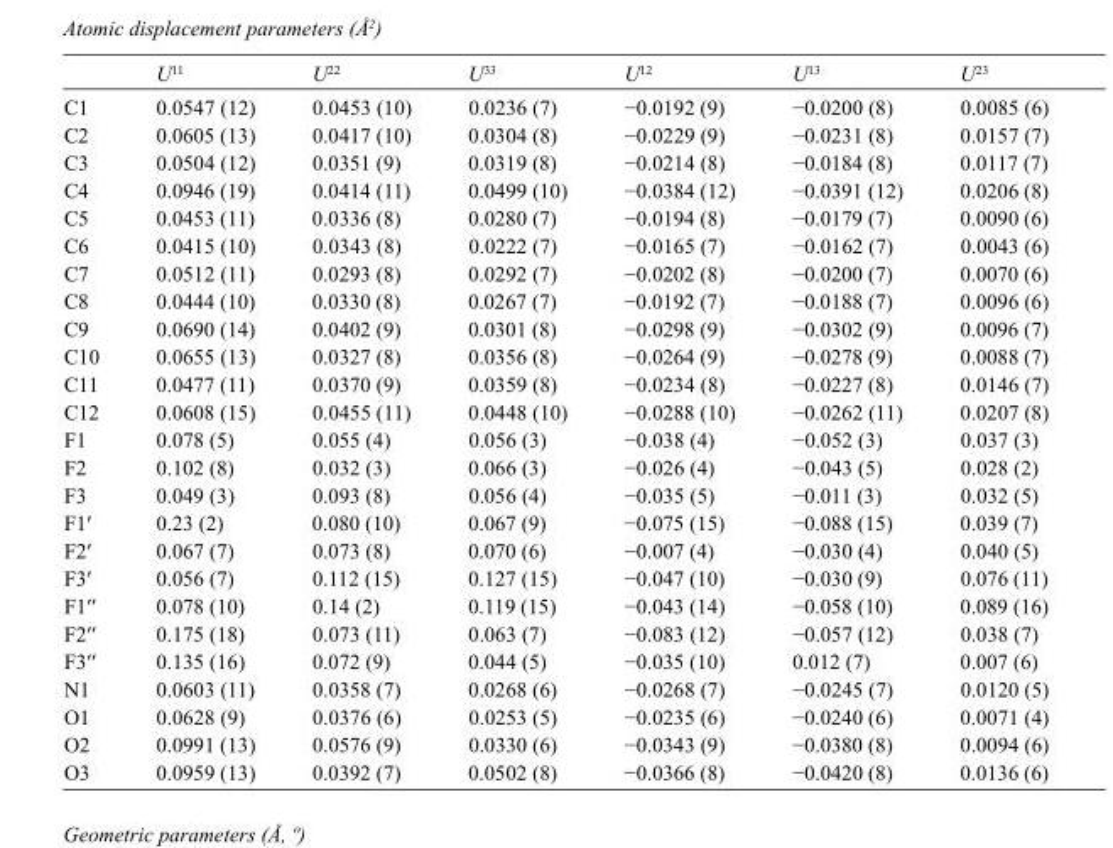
<table><thead><tr><td></td><td>U<sup>11</sup></td><td>U<sup>22</sup></td><td>U<sup>33</sup></td><td>U<sup>12</sup></td><td>U<sup>13</sup></td><td>U<sup>23</sup></td></tr></thead><tbody><tr><td>C1</td><td>0.0547 (12)</td><td>0.0453 (10)</td><td>0.0236 (7)</td><td>−0.0192 (9)</td><td>−0.0200 (8)</td><td>0.0085 (6)</td></tr><tr><td>C2</td><td>0.0605 (13)</td><td>0.0417 (10)</td><td>0.0304 (8)</td><td>−0.0229 (9)</td><td>−0.0231 (8)</td><td>0.0157 (7)</td></tr><tr><td>C3</td><td>0.0504 (12)</td><td>0.0351 (9)</td><td>0.0319 (8)</td><td>−0.0214 (8)</td><td>−0.0184 (8)</td><td>0.0117 (7)</td></tr><tr><td>C4</td><td>0.0946 (19)</td><td>0.0414 (11)</td><td>0.0499 (10)</td><td>−0.0384 (12)</td><td>−0.0391 (12)</td><td>0.0206 (8)</td></tr><tr><td>C5</td><td>0.0453 (11)</td><td>0.0336 (8)</td><td>0.0280 (7)</td><td>−0.0194 (8)</td><td>−0.0179 (7)</td><td>0.0090 (6)</td></tr><tr><td>C6</td><td>0.0415 (10)</td><td>0.0343 (8)</td><td>0.0222 (7)</td><td>−0.0165 (7)</td><td>−0.0162 (7)</td><td>0.0043 (6)</td></tr><tr><td>C7</td><td>0.0512 (11)</td><td>0.0293 (8)</td><td>0.0292 (7)</td><td>−0.0202 (8)</td><td>−0.0200 (7)</td><td>0.0070 (6)</td></tr><tr><td>C8</td><td>0.0444 (10)</td><td>0.0330 (8)</td><td>0.0267 (7)</td><td>−0.0192 (7)</td><td>−0.0188 (7)</td><td>0.0096 (6)</td></tr><tr><td>C9</td><td>0.0690 (14)</td><td>0.0402 (9)</td><td>0.0301 (8)</td><td>−0.0298 (9)</td><td>−0.0302 (9)</td><td>0.0096 (7)</td></tr><tr><td>C10</td><td>0.0655 (13)</td><td>0.0327 (8)</td><td>0.0356 (8)</td><td>−0.0264 (9)</td><td>−0.0278 (9)</td><td>0.0088 (7)</td></tr><tr><td>C11</td><td>0.0477 (11)</td><td>0.0370 (9)</td><td>0.0359 (8)</td><td>−0.0234 (8)</td><td>−0.0227 (8)</td><td>0.0146 (7)</td></tr><tr><td>C12</td><td>0.0608 (15)</td><td>0.0455 (11)</td><td>0.0448 (10)</td><td>−0.0288 (10)</td><td>−0.0262 (11)</td><td>0.0207 (8)</td></tr><tr><td>F1</td><td>0.078 (5)</td><td>0.055 (4)</td><td>0.056 (3)</td><td>−0.038 (4)</td><td>−0.052 (3)</td><td>0.037 (3)</td></tr><tr><td>F2</td><td>0.102 (8)</td><td>0.032 (3)</td><td>0.066 (3)</td><td>−0.026 (4)</td><td>−0.043 (5)</td><td>0.028 (2)</td></tr><tr><td>F3</td><td>0.049 (3)</td><td>0.093 (8)</td><td>0.056 (4)</td><td>−0.035 (5)</td><td>−0.011 (3)</td><td>0.032 (5)</td></tr><tr><td>F1′</td><td>0.23 (2)</td><td>0.080 (10)</td><td>0.067 (9)</td><td>−0.075 (15)</td><td>−0.088 (15)</td><td>0.039 (7)</td></tr><tr><td>F2′</td><td>0.067 (7)</td><td>0.073 (8)</td><td>0.070 (6)</td><td>−0.007 (4)</td><td>−0.030 (4)</td><td>0.040 (5)</td></tr><tr><td>F3′</td><td>0.056 (7)</td><td>0.112 (15)</td><td>0.127 (15)</td><td>−0.047 (10)</td><td>−0.030 (9)</td><td>0.076 (11)</td></tr><tr><td>F1′′</td><td>0.078 (10)</td><td>0.14 (2)</td><td>0.119 (15)</td><td>−0.043 (14)</td><td>−0.058 (10)</td><td>0.089 (16)</td></tr><tr><td>F2′′</td><td>0.175 (18)</td><td>0.073 (11)</td><td>0.063 (7)</td><td>−0.083 (12)</td><td>−0.057 (12)</td><td>0.038 (7)</td></tr><tr><td>F3′′</td><td>0.135 (16)</td><td>0.072 (9)</td><td>0.044 (5)</td><td>−0.035 (10)</td><td>0.012 (7)</td><td>0.007 (6)</td></tr><tr><td>N1</td><td>0.0603 (11)</td><td>0.0358 (7)</td><td>0.0268 (6)</td><td>−0.0268 (7)</td><td>−0.0245 (7)</td><td>0.0120 (5)</td></tr><tr><td>O1</td><td>0.0628 (9)</td><td>0.0376 (6)</td><td>0.0253 (5)</td><td>−0.0235 (6)</td><td>−0.0240 (6)</td><td>0.0071 (4)</td></tr><tr><td>O2</td><td>0.0991 (13)</td><td>0.0576 (9)</td><td>0.0330 (6)</td><td>−0.0343 (9)</td><td>−0.0380 (8)</td><td>0.0094 (6)</td></tr><tr><td>O3</td><td>0.0959 (13)</td><td>0.0392 (7)</td><td>0.0502 (8)</td><td>−0.0366 (8)</td><td>−0.0420 (8)</td><td>0.0136 (6)</td></tr></tbody></table>